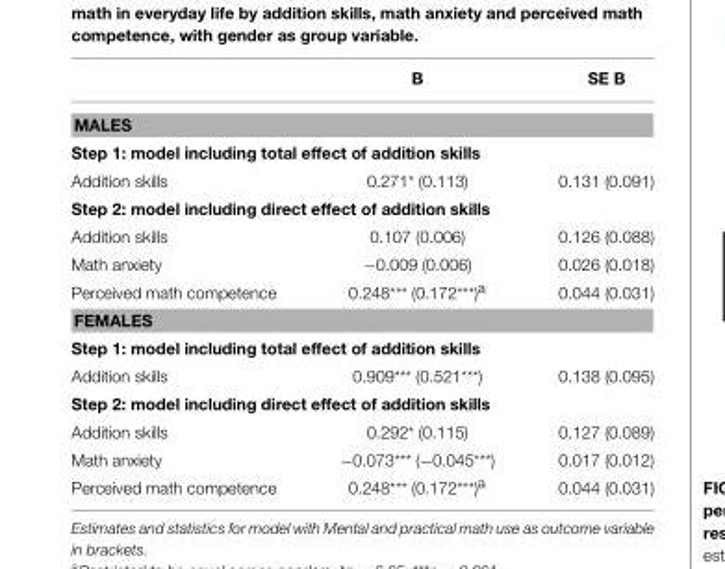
<table><thead><tr><td></td><td>B</td><td>SE B</td></tr></thead><tbody><tr><td colspan="3">MALES</td></tr><tr><td colspan="3">Step 1: model including total effect of addition skills</td></tr><tr><td>Addition skills</td><td>0.271* (0.113)</td><td>0.131 (0.091)</td></tr><tr><td colspan="3">Step 2: model including direct effect of addition skills</td></tr><tr><td>Addition skills</td><td>0.107 (0.006)</td><td>0.126 (0.088)</td></tr><tr><td>Math anxiety</td><td>−0.009 (0.006)</td><td>0.026 (0.018)</td></tr><tr><td>Perceived math competence</td><td>0.248*** (0.172***)<sup>a</sup></td><td>0.044 (0.031)</td></tr><tr><td colspan="3">FEMALES</td></tr><tr><td colspan="3">Step 1: model including total effect of addition skills</td></tr><tr><td>Addition skills</td><td>0.909*** (0.521***)</td><td>0.138 (0.095)</td></tr><tr><td colspan="3">Step 2: model including direct effect of addition skills</td></tr><tr><td>Addition skills</td><td>0.292* (0.115)</td><td>0.127 (0.089)</td></tr><tr><td>Math anxiety</td><td>−0.073*** (−0.045***)</td><td>0.017 (0.012)</td></tr><tr><td>Perceived math competence</td><td>0.248*** (0.172***)<sup>a</sup></td><td>0.044 (0.031)</td></tr></tbody></table>